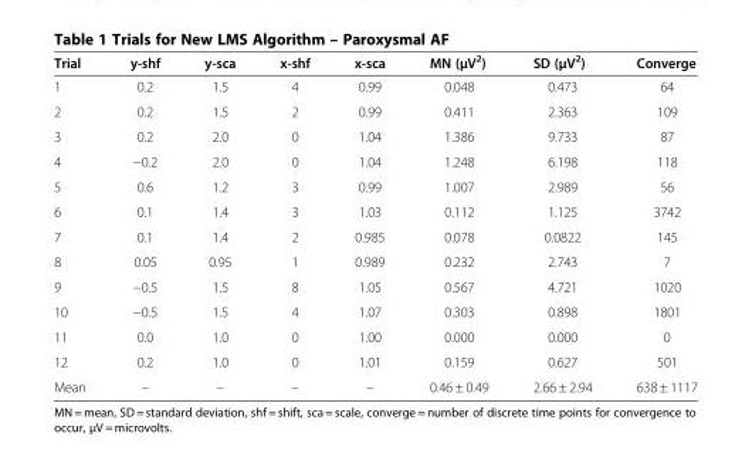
<table><thead><tr><td>Trial</td><td>y-shf</td><td>y-sca</td><td>x-shf</td><td>x-sca</td><td>MN (μV<sup>2</sup>)</td><td>SD (μV<sup>2</sup>)</td><td>Converge</td></tr></thead><tbody><tr><td>1</td><td>0.2</td><td>1.5</td><td>4</td><td>0.99</td><td>0.048</td><td>0.473</td><td>64</td></tr><tr><td>2</td><td>0.2</td><td>1.5</td><td>2</td><td>0.99</td><td>0.411</td><td>2.363</td><td>109</td></tr><tr><td>3</td><td>0.2</td><td>2.0</td><td>0</td><td>1.04</td><td>1.386</td><td>9.733</td><td>87</td></tr><tr><td>4</td><td>−0.2</td><td>2.0</td><td>0</td><td>1.04</td><td>1.248</td><td>6.198</td><td>118</td></tr><tr><td>5</td><td>0.6</td><td>1.2</td><td>3</td><td>0.99</td><td>1.007</td><td>2.989</td><td>56</td></tr><tr><td>6</td><td>0.1</td><td>1.4</td><td>3</td><td>1.03</td><td>0.112</td><td>1.125</td><td>3742</td></tr><tr><td>7</td><td>0.1</td><td>1.4</td><td>2</td><td>0.985</td><td>0.078</td><td>0.0822</td><td>145</td></tr><tr><td>8</td><td>0.05</td><td>0.95</td><td>1</td><td>0.989</td><td>0.232</td><td>2.743</td><td>7</td></tr><tr><td>9</td><td>−0.5</td><td>1.5</td><td>8</td><td>1.05</td><td>0.567</td><td>4.721</td><td>1020</td></tr><tr><td>10</td><td>−0.5</td><td>1.5</td><td>4</td><td>1.07</td><td>0.303</td><td>0.898</td><td>1801</td></tr><tr><td>11</td><td>0.0</td><td>1.0</td><td>0</td><td>1.00</td><td>0.000</td><td>0.000</td><td>0</td></tr><tr><td>12</td><td>0.2</td><td>1.0</td><td>0</td><td>1.01</td><td>0.159</td><td>0.627</td><td>501</td></tr><tr><td>Mean</td><td>–</td><td>–</td><td>–</td><td>–</td><td>0.46 ± 0.49</td><td>2.66 ± 2.94</td><td>638 ± 1117</td></tr></tbody></table>